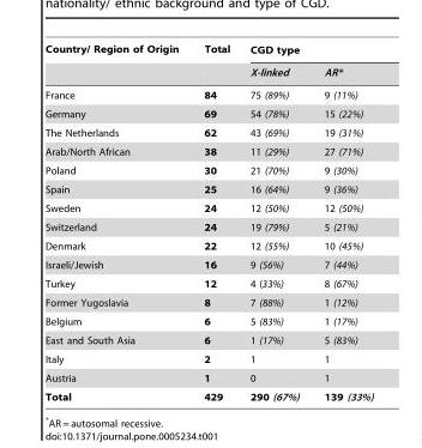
<table><thead><tr><td rowspan="2">Country/ Region of Origin</td><td rowspan="2">Total</td><td colspan="2">CGD type</td></tr><tr><td>X-linked</td><td>AR*</td></tr></thead><tbody><tr><td>France</td><td>84</td><td>75 (89%)</td><td>9 (11%)</td></tr><tr><td>Germany</td><td>69</td><td>54 (78%)</td><td>15 (22%)</td></tr><tr><td>The Netherlands</td><td>62</td><td>43 (69%)</td><td>19 (31%)</td></tr><tr><td>Arab/North African</td><td>38</td><td>11 (29%)</td><td>27 (71%)</td></tr><tr><td>Poland</td><td>30</td><td>21 (70%)</td><td>9 (30%)</td></tr><tr><td>Spain</td><td>25</td><td>16 (64%)</td><td>9 (36%)</td></tr><tr><td>Sweden</td><td>24</td><td>12 (50%)</td><td>12 (50%)</td></tr><tr><td>Switzerland</td><td>24</td><td>19 (79%)</td><td>5 (21%)</td></tr><tr><td>Denmark</td><td>22</td><td>12 (55%)</td><td>10 (45%)</td></tr><tr><td>Israeli/Jewish</td><td>16</td><td>9 (56%)</td><td>7 (44%)</td></tr><tr><td>Turkey</td><td>12</td><td>4 (33%)</td><td>8 (67%)</td></tr><tr><td>Former Yugoslavia</td><td>8</td><td>7 (88%)</td><td>1 (12%)</td></tr><tr><td>Belgium</td><td>6</td><td>5 (83%)</td><td>1 (17%)</td></tr><tr><td>East and South Asia</td><td>6</td><td>1 (17%)</td><td>5 (83%)</td></tr><tr><td>Italy</td><td>2</td><td>1</td><td>1</td></tr><tr><td>Austria</td><td>1</td><td>0</td><td>1</td></tr><tr><td>Total</td><td>429</td><td>290 (67%)</td><td>139 (33%)</td></tr></tbody></table>